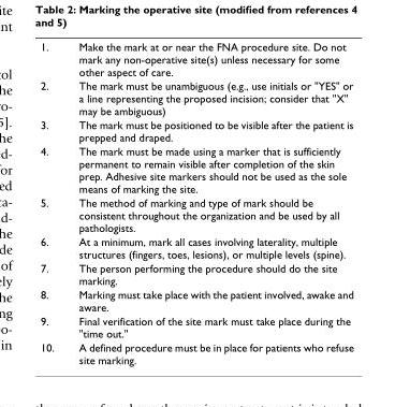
<table><tbody><tr><td>1.</td><td>Make the mark at or near the FNA procedure site. Do not mark any non-operative site(s) unless necessary for some other aspect of care.</td></tr><tr><td>2.</td><td>The mark must be unambiguous (e.g., use initials or &quot;YES&quot; or a line representing the proposed incision; consider that &quot;X&quot; may be ambiguous)</td></tr><tr><td>3.</td><td>The mark must be positioned to be visible after the patient is prepped and draped.</td></tr><tr><td>4.</td><td>The mark must be made using a marker that is sufficiently permanent to remain visible after completion of the skin prep. Adhesive site markers should not be used as the sole means of marking the site.</td></tr><tr><td>5.</td><td>The method of marking and type of mark should be consistent throughout the organization and be used by all pathologists.</td></tr><tr><td>6.</td><td>At a minimum, mark all cases involving laterality, multiple structures (fingers, toes, lesions), or multiple levels (spine).</td></tr><tr><td>7.</td><td>The person performing the procedure should do the site marking.</td></tr><tr><td>8.</td><td>Marking must take place with the patient involved, awake and aware.</td></tr><tr><td>9.</td><td>Final verification of the site mark must take place during the &quot;time out.&quot;</td></tr><tr><td>10.</td><td>A defined procedure must be in place for patients who refuse site marking.</td></tr></tbody></table>